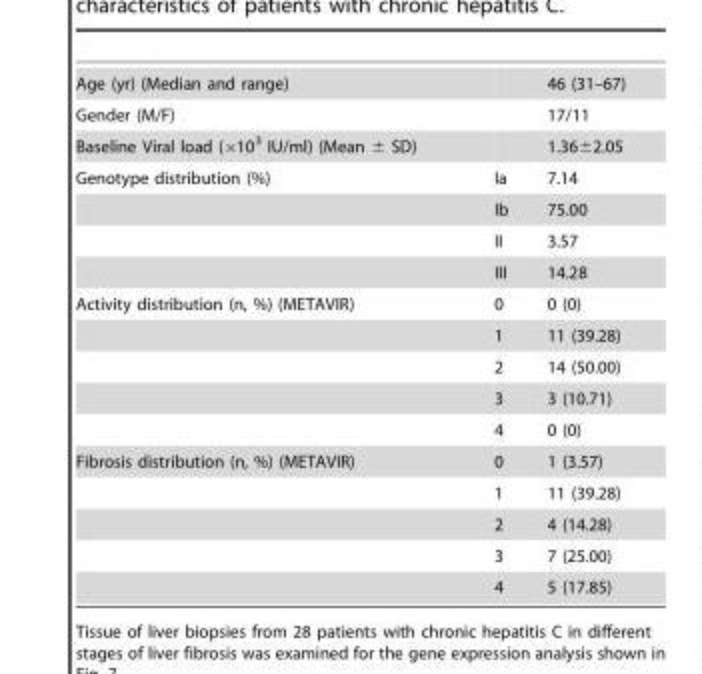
<table><tbody><tr><td>Age (yr) (Median and range)</td><td></td><td>46 (31–67)</td></tr><tr><td>Gender (M/F)</td><td></td><td>17/11</td></tr><tr><td>Baseline Viral load (×10<sup>3</sup> IU/ml) (Mean ± SD)</td><td></td><td>1.36±2.05</td></tr><tr><td rowspan="4">Genotype distribution (%)</td><td>Ia</td><td>7.14</td></tr><tr><td>Ib</td><td>75.00</td></tr><tr><td>II</td><td>3.57</td></tr><tr><td>III</td><td>14.28</td></tr><tr><td rowspan="5">Activity distribution (n, %) (METAVIR)</td><td>0</td><td>0 (0)</td></tr><tr><td>1</td><td>11 (39.28)</td></tr><tr><td>2</td><td>14 (50.00)</td></tr><tr><td>3</td><td>3 (10.71)</td></tr><tr><td>4</td><td>0 (0)</td></tr><tr><td rowspan="5">Fibrosis distribution (n, %) (METAVIR)</td><td>0</td><td>1 (3.57)</td></tr><tr><td>1</td><td>11 (39.28)</td></tr><tr><td>2</td><td>4 (14.28)</td></tr><tr><td>3</td><td>7 (25.00)</td></tr><tr><td>4</td><td>5 (17.85)</td></tr></tbody></table>